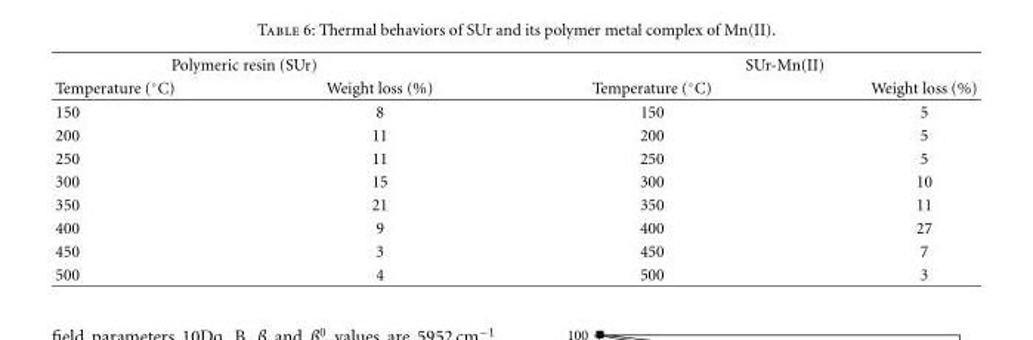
<table><thead><tr><td colspan="2">Polymeric resin (SUr)</td><td colspan="2">SUr-Mn(II)</td></tr><tr><td>Temperature (◦C)</td><td>Weight loss (%)</td><td>Temperature (◦C)</td><td>Weight loss (%)</td></tr></thead><tbody><tr><td>150</td><td>8</td><td>150</td><td>5</td></tr><tr><td>200</td><td>11</td><td>200</td><td>5</td></tr><tr><td>250</td><td>11</td><td>250</td><td>5</td></tr><tr><td>300</td><td>15</td><td>300</td><td>10</td></tr><tr><td>350</td><td>21</td><td>350</td><td>11</td></tr><tr><td>400</td><td>9</td><td>400</td><td>27</td></tr><tr><td>450</td><td>3</td><td>450</td><td>7</td></tr><tr><td>500</td><td>4</td><td>500</td><td>3</td></tr></tbody></table>